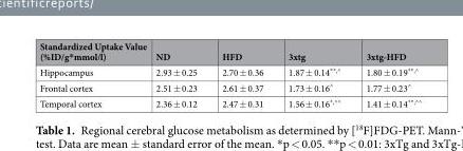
<table><thead><tr><td>Standardized Uptake Value (%ID/g*mmol/l)</td><td>ND</td><td>HFD</td><td>3xtg</td><td>3xtg-HFD</td></tr></thead><tbody><tr><td>Hippocampus</td><td>2.93 ± 0.25</td><td>2.70 ± 0.36</td><td>1.87 ± 0.14**,^</td><td>1.80 ± 0.19**,^</td></tr><tr><td>Frontal cortex</td><td>2.51 ± 0.23</td><td>2.61 ± 0.37</td><td>1.73 ± 0.16<sup>^</sup></td><td>1.77 ± 0.23<sup>^</sup></td></tr><tr><td>Temporal cortex</td><td>2.36 ± 0.12</td><td>2.47 ± 0.31</td><td>1.56 ± 0.16*,^^</td><td>1.41 ± 0.14**,^^</td></tr></tbody></table>